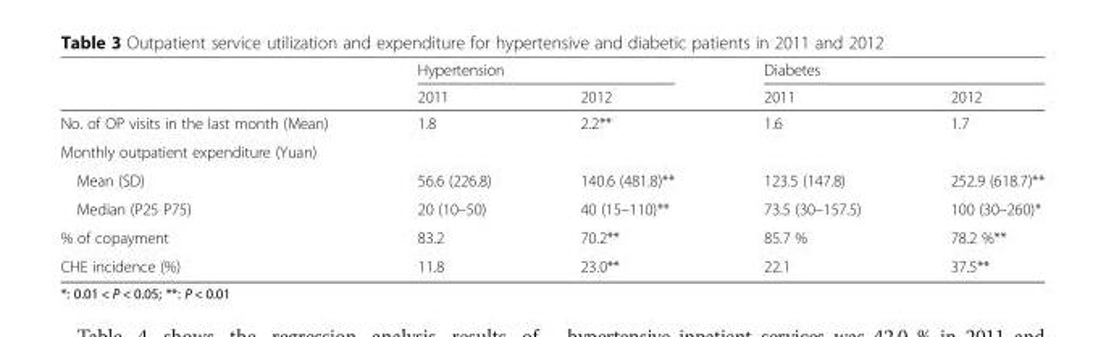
<table><thead><tr><td rowspan="2"></td><td colspan="2">Hypertension</td><td colspan="2">Diabetes</td></tr><tr><td>2011</td><td>2012</td><td>2011</td><td>2012</td></tr></thead><tbody><tr><td>No. of OP visits in the last month (Mean)</td><td>1.8</td><td>2.2**</td><td>1.6</td><td>1.7</td></tr><tr><td colspan="5">Monthly outpatient expenditure (Yuan)</td></tr><tr><td>Mean (SD)</td><td>56.6 (226.8)</td><td>140.6 (481.8)**</td><td>123.5 (147.8)</td><td>252.9 (618.7)**</td></tr><tr><td>Median (P25 P75)</td><td>20 (10–50)</td><td>40 (15–110)**</td><td>73.5 (30–157.5)</td><td>100 (30–260)*</td></tr><tr><td>% of copayment</td><td>83.2</td><td>70.2**</td><td>85.7 %</td><td>78.2 %**</td></tr><tr><td>CHE incidence (%)</td><td>11.8</td><td>23.0**</td><td>22.1</td><td>37.5**</td></tr></tbody></table>